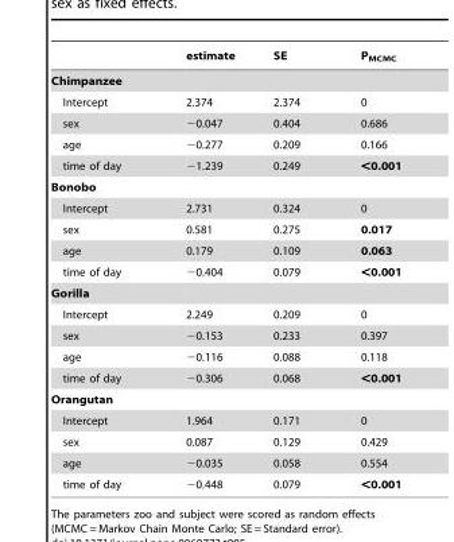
<table><thead><tr><td></td><td>estimate</td><td>SE</td><td>P<sub>MCMC</sub></td></tr></thead><tbody><tr><td colspan="4">Chimpanzee</td></tr><tr><td>Intercept</td><td>2.374</td><td>2.374</td><td>0</td></tr><tr><td>sex</td><td>−0.047</td><td>0.404</td><td>0.686</td></tr><tr><td>age</td><td>−0.277</td><td>0.209</td><td>0.166</td></tr><tr><td>time of day</td><td>−1.239</td><td>0.249</td><td>&lt;0.001</td></tr><tr><td colspan="4">Bonobo</td></tr><tr><td>Intercept</td><td>2.731</td><td>0.324</td><td>0</td></tr><tr><td>sex</td><td>0.581</td><td>0.275</td><td>0.017</td></tr><tr><td>age</td><td>0.179</td><td>0.109</td><td>0.063</td></tr><tr><td>time of day</td><td>−0.404</td><td>0.079</td><td>&lt;0.001</td></tr><tr><td colspan="4">Gorilla</td></tr><tr><td>Intercept</td><td>2.249</td><td>0.209</td><td>0</td></tr><tr><td>sex</td><td>−0.153</td><td>0.233</td><td>0.397</td></tr><tr><td>age</td><td>−0.116</td><td>0.088</td><td>0.118</td></tr><tr><td>time of day</td><td>−0.306</td><td>0.068</td><td>&lt;0.001</td></tr><tr><td colspan="4">Orangutan</td></tr><tr><td>Intercept</td><td>1.964</td><td>0.171</td><td>0</td></tr><tr><td>sex</td><td>0.087</td><td>0.129</td><td>0.429</td></tr><tr><td>age</td><td>−0.035</td><td>0.058</td><td>0.554</td></tr><tr><td>time of day</td><td>−0.448</td><td>0.079</td><td>&lt;0.001</td></tr></tbody></table>